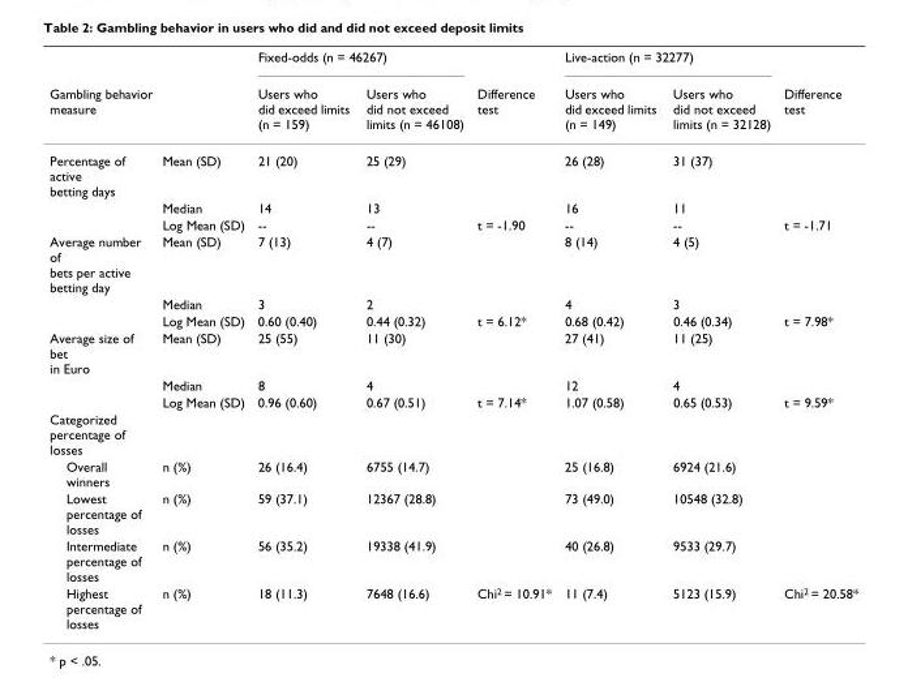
<table><thead><tr><td></td><td></td><td colspan="2">Fixed-odds (n = 46267)</td><td rowspan="2">Difference test</td><td colspan="2">Live-action (n = 32277)</td><td rowspan="2">Difference test</td></tr><tr><td colspan="2">Gambling behavior measure</td><td>Users who did exceed limits (n = 159)</td><td>Users who did not exceed limits (n = 46108)</td><td>Users who did exceed limits (n = 149)</td><td>Users who did not exceed limits (n = 32128)</td></tr></thead><tbody><tr><td rowspan="3">Percentage of active betting days</td><td>Mean (SD)</td><td>21 (20)</td><td>25 (29)</td><td></td><td>26 (28)</td><td>31 (37)</td><td></td></tr><tr><td>Median</td><td>14</td><td>13</td><td></td><td>16</td><td>11</td><td></td></tr><tr><td>Log Mean (SD)</td><td>--</td><td>--</td><td>t = -1.90</td><td>--</td><td>--</td><td>t = -1.71</td></tr><tr><td rowspan="3">Average number of bets per active betting day</td><td>Mean (SD)</td><td>7 (13)</td><td>4 (7)</td><td></td><td>8 (14)</td><td>4 (5)</td><td></td></tr><tr><td>Median</td><td>3</td><td>2</td><td></td><td>4</td><td>3</td><td></td></tr><tr><td>Log Mean (SD)</td><td>0.60 (0.40)</td><td>0.44 (0.32)</td><td>t = 6.12*</td><td>0.68 (0.42)</td><td>0.46 (0.34)</td><td>t = 7.98*</td></tr><tr><td rowspan="3">Average size of bet in Euro</td><td>Mean (SD)</td><td>25 (55)</td><td>11 (30)</td><td></td><td>27 (41)</td><td>11 (25)</td><td></td></tr><tr><td>Median</td><td>8</td><td>4</td><td></td><td>12</td><td>4</td><td></td></tr><tr><td>Log Mean (SD)</td><td>0.96 (0.60)</td><td>0.67 (0.51)</td><td>t = 7.14*</td><td>1.07 (0.58)</td><td>0.65 (0.53)</td><td>t = 9.59*</td></tr><tr><td colspan="8">Categorized percentage of losses</td></tr><tr><td>Overall winners</td><td>n (%)</td><td>26 (16.4)</td><td>6755 (14.7)</td><td></td><td>25 (16.8)</td><td>6924 (21.6)</td><td></td></tr><tr><td>Lowest percentage of losses</td><td>n (%)</td><td>59 (37.1)</td><td>12367 (28.8)</td><td></td><td>73 (49.0)</td><td>10548 (32.8)</td><td></td></tr><tr><td>Intermediate percentage of losses</td><td>n (%)</td><td>56 (35.2)</td><td>19338 (41.9)</td><td></td><td>40 (26.8)</td><td>9533 (29.7)</td><td></td></tr><tr><td>Highest percentage of losses</td><td>n (%)</td><td>18 (11.3)</td><td>7648 (16.6)</td><td>Chi<sup>2</sup> = 10.91*</td><td>11 (7.4)</td><td>5123 (15.9)</td><td>Chi<sup>2</sup> = 20.58*</td></tr></tbody></table>